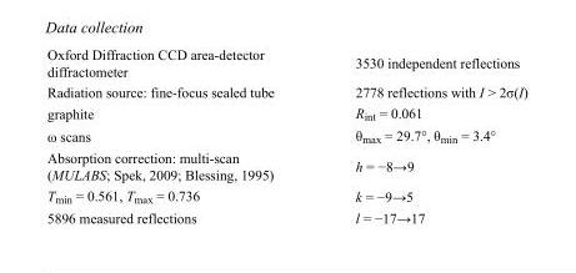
<table><tbody><tr><td>Oxford Diffraction CCD area-detector diffractometer</td><td>3530 independent reflections</td></tr><tr><td>Radiation source: fine-focus sealed tube</td><td>2778 reflections with I &gt; 2σ(I)</td></tr><tr><td>graphite</td><td>R<sub>int</sub> = 0.061</td></tr><tr><td>ω scans</td><td>θ<sub>max</sub> = 29.7°, θ<sub>min</sub> = 3.4°</td></tr><tr><td>Absorption correction: multi-scan (MULABS; Spek, 2009; Blessing, 1995)</td><td>h = −8→9</td></tr><tr><td>T<sub>min</sub> = 0.561, T<sub>max</sub> = 0.736</td><td>k = −9→5</td></tr><tr><td>5896 measured reflections</td><td>l = −17→17</td></tr></tbody></table>